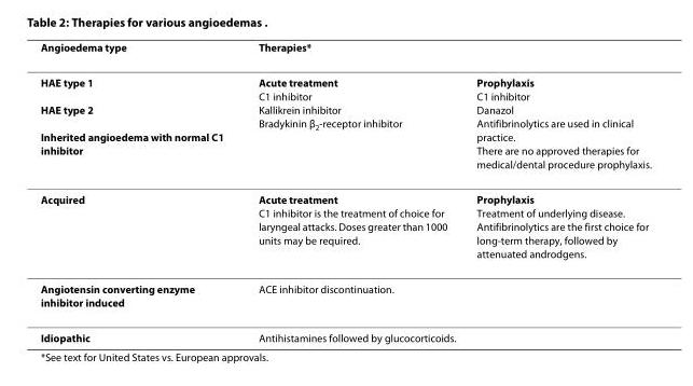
<table><thead><tr><td rowspan="2">Angioedema type HAE type 1 HAE type 2 Inherited angioedema with normal C1 inhibitor</td><td colspan="2">Therapies*</td></tr><tr><td>Acute treatment C1 inhibitor Kallikrein inhibitor Bradykinin β<sub>2</sub>-receptor inhibitor</td><td>Prophylaxis C1 inhibitor Danazol Antifibrinolytics are used in clinical practice. There are no approved therapies for medical/dental procedure prophylaxis.</td></tr></thead><tbody><tr><td>Acquired</td><td>Acute treatment C1 inhibitor is the treatment of choice for laryngeal attacks. Doses greater than 1000 units may be required.</td><td>Prophylaxis Treatment of underlying disease. Antifibrinolytics are the first choice for long-term therapy, followed by attenuated androdgens.</td></tr><tr><td>Angiotensin converting enzyme inhibitor induced</td><td colspan="2">ACE inhibitor discontinuation.</td></tr><tr><td>Idiopathic</td><td colspan="2">Antihistamines followed by glucocorticoids.</td></tr></tbody></table>